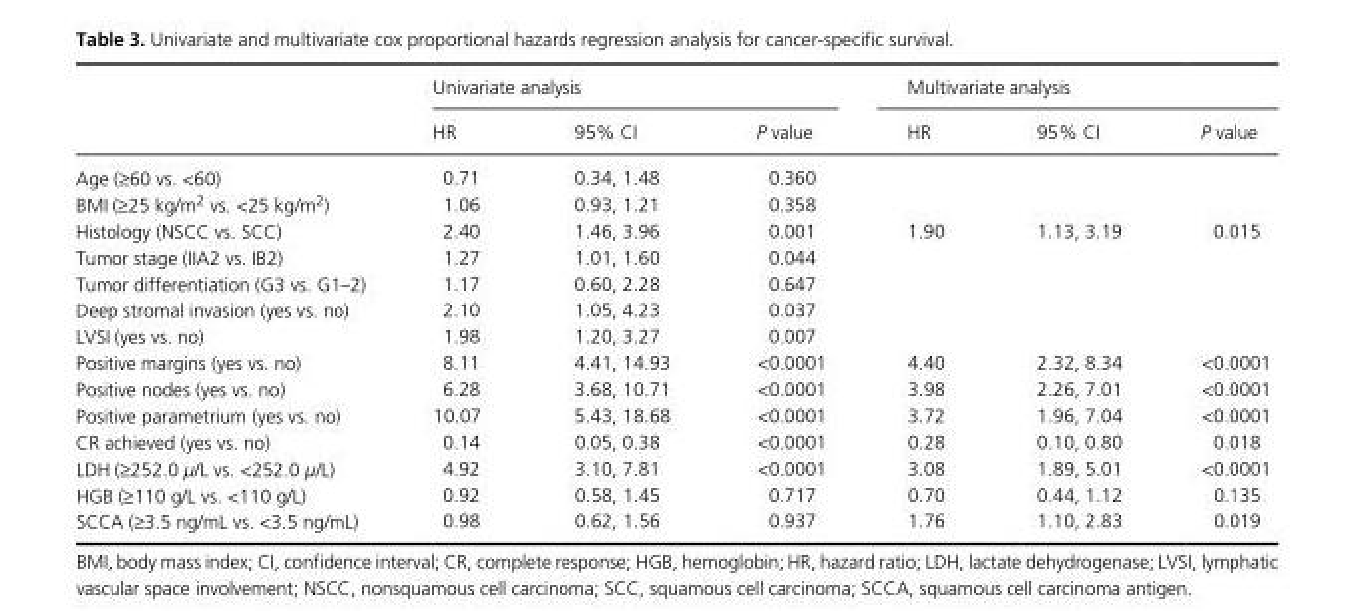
<table><thead><tr><td rowspan="2"></td><td colspan="3">Univariate analysis</td><td colspan="3">Multivariate analysis</td></tr><tr><td>HR</td><td>95% CI</td><td>P value</td><td>HR</td><td>95% CI</td><td>P value</td></tr></thead><tbody><tr><td>Age (≥60 vs. &lt;60)</td><td>0.71</td><td>0.34, 1.48</td><td>0.360</td><td></td><td></td><td></td></tr><tr><td>BMI (≥25 kg/m<sup>2</sup> vs. &lt;25 kg/m<sup>2</sup>)</td><td>1.06</td><td>0.93, 1.21</td><td>0.358</td><td></td><td></td><td></td></tr><tr><td>Histology (NSCC vs. SCC)</td><td>2.40</td><td>1.46, 3.96</td><td>0.001</td><td>1.90</td><td>1.13, 3.19</td><td>0.015</td></tr><tr><td>Tumor stage (IIA2 vs. IB2)</td><td>1.27</td><td>1.01, 1.60</td><td>0.044</td><td></td><td></td><td></td></tr><tr><td>Tumor differentiation (G3 vs. G1–2)</td><td>1.17</td><td>0.60, 2.28</td><td>0.647</td><td></td><td></td><td></td></tr><tr><td>Deep stromal invasion (yes vs. no)</td><td>2.10</td><td>1.05, 4.23</td><td>0.037</td><td></td><td></td><td></td></tr><tr><td>LVSI (yes vs. no)</td><td>1.98</td><td>1.20, 3.27</td><td>0.007</td><td></td><td></td><td></td></tr><tr><td>Positive margins (yes vs. no)</td><td>8.11</td><td>4.41, 14.93</td><td>&lt;0.0001</td><td>4.40</td><td>2.32, 8.34</td><td>&lt;0.0001</td></tr><tr><td>Positive nodes (yes vs. no)</td><td>6.28</td><td>3.68, 10.71</td><td>&lt;0.0001</td><td>3.98</td><td>2.26, 7.01</td><td>&lt;0.0001</td></tr><tr><td>Positive parametrium (yes vs. no)</td><td>10.07</td><td>5.43, 18.68</td><td>&lt;0.0001</td><td>3.72</td><td>1.96, 7.04</td><td>&lt;0.0001</td></tr><tr><td>CR achieved (yes vs. no)</td><td>0.14</td><td>0.05, 0.38</td><td>&lt;0.0001</td><td>0.28</td><td>0.10, 0.80</td><td>0.018</td></tr><tr><td>LDH (≥252.0 μ/L vs. &lt;252.0 μ/L)</td><td>4.92</td><td>3.10, 7.81</td><td>&lt;0.0001</td><td>3.08</td><td>1.89, 5.01</td><td>&lt;0.0001</td></tr><tr><td>HGB (≥110 g/L vs. &lt;110 g/L)</td><td>0.92</td><td>0.58, 1.45</td><td>0.717</td><td>0.70</td><td>0.44, 1.12</td><td>0.135</td></tr><tr><td>SCCA (≥3.5 ng/mL vs. &lt;3.5 ng/mL)</td><td>0.98</td><td>0.62, 1.56</td><td>0.937</td><td>1.76</td><td>1.10, 2.83</td><td>0.019</td></tr></tbody></table>